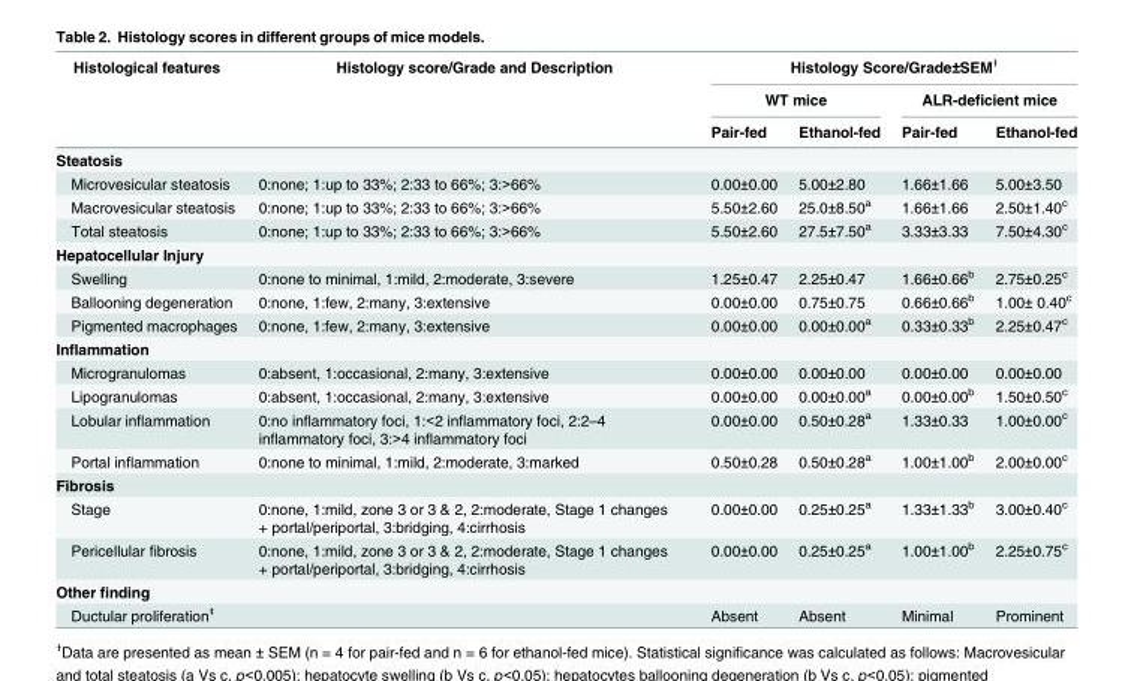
<table><thead><tr><td rowspan="3">Histological features</td><td rowspan="3">Histology score/Grade and Description</td><td colspan="4">Histology Score/Grade±SEM<sup>ƚ</sup></td></tr><tr><td colspan="2">WT mice</td><td colspan="2">ALR-deficient mice</td></tr><tr><td>Pair-fed</td><td>Ethanol-fed</td><td>Pair-fed</td><td>Ethanol-fed</td></tr></thead><tbody><tr><td colspan="6">Steatosis</td></tr><tr><td>Microvesicular steatosis</td><td>0:none; 1:up to 33%; 2:33 to 66%; 3:&gt;66%</td><td>0.00±0.00</td><td>5.00±2.80</td><td>1.66±1.66</td><td>5.00±3.50</td></tr><tr><td>Macrovesicular steatosis</td><td>0:none; 1:up to 33%; 2:33 to 66%; 3:&gt;66%</td><td>5.50±2.60</td><td>25.0±8.50<sup>a</sup></td><td>1.66±1.66</td><td>2.50±1.40<sup>c</sup></td></tr><tr><td>Total steatosis</td><td>0:none; 1:up to 33%; 2:33 to 66%; 3:&gt;66%</td><td>5.50±2.60</td><td>27.5±7.50<sup>a</sup></td><td>3.33±3.33</td><td>7.50±4.30<sup>c</sup></td></tr><tr><td colspan="6">Hepatocellular Injury</td></tr><tr><td>Swelling</td><td>0:none to minimal, 1:mild, 2:moderate, 3:severe</td><td>1.25±0.47</td><td>2.25±0.47</td><td>1.66±0.66<sup>b</sup></td><td>2.75±0.25<sup>c</sup></td></tr><tr><td>Ballooning degeneration</td><td>0:none, 1:few, 2:many, 3:extensive</td><td>0.00±0.00</td><td>0.75±0.75</td><td>0.66±0.66<sup>b</sup></td><td>1.00± 0.40<sup>c</sup></td></tr><tr><td>Pigmented macrophages</td><td>0:none, 1:few, 2:many, 3:extensive</td><td>0.00±0.00</td><td>0.00±0.00<sup>a</sup></td><td>0.33±0.33<sup>b</sup></td><td>2.25±0.47<sup>c</sup></td></tr><tr><td colspan="6">Inflammation</td></tr><tr><td>Microgranulomas</td><td>0:absent, 1:occasional, 2:many, 3:extensive</td><td>0.00±0.00</td><td>0.00±0.00</td><td>0.00±0.00</td><td>0.00±0.00</td></tr><tr><td>Lipogranulomas</td><td>0:absent, 1:occasional, 2:many, 3:extensive</td><td>0.00±0.00</td><td>0.00±0.00<sup>a</sup></td><td>0.00±0.00<sup>b</sup></td><td>1.50±0.50<sup>c</sup></td></tr><tr><td>Lobular inflammation</td><td>0:no inflammatory foci, 1:&lt;2 inflammatory foci, 2:2–4 inflammatory foci, 3:&gt;4 inflammatory foci</td><td>0.00±0.00</td><td>0.50±0.28<sup>a</sup></td><td>1.33±0.33</td><td>1.00±0.00<sup>c</sup></td></tr><tr><td>Portal inflammation</td><td>0:none to minimal, 1:mild, 2:moderate, 3:marked</td><td>0.50±0.28</td><td>0.50±0.28<sup>a</sup></td><td>1.00±1.00<sup>b</sup></td><td>2.00±0.00<sup>c</sup></td></tr><tr><td colspan="6">Fibrosis</td></tr><tr><td>Stage</td><td>0:none, 1:mild, zone 3 or 3 &amp; 2, 2:moderate, Stage 1 changes + portal/periportal, 3:bridging, 4:cirrhosis</td><td>0.00±0.00</td><td>0.25±0.25<sup>a</sup></td><td>1.33±1.33<sup>b</sup></td><td>3.00±0.40<sup>c</sup></td></tr><tr><td>Pericellular fibrosis</td><td>0:none, 1:mild, zone 3 or 3 &amp; 2, 2:moderate, Stage 1 changes + portal/periportal, 3:bridging, 4:cirrhosis</td><td>0.00±0.00</td><td>0.25±0.25<sup>a</sup></td><td>1.00±1.00<sup>b</sup></td><td>2.25±0.75<sup>c</sup></td></tr><tr><td colspan="6">Other finding</td></tr><tr><td>Ductular proliferation<sup>ǂ</sup></td><td></td><td>Absent</td><td>Absent</td><td>Minimal</td><td>Prominent</td></tr></tbody></table>